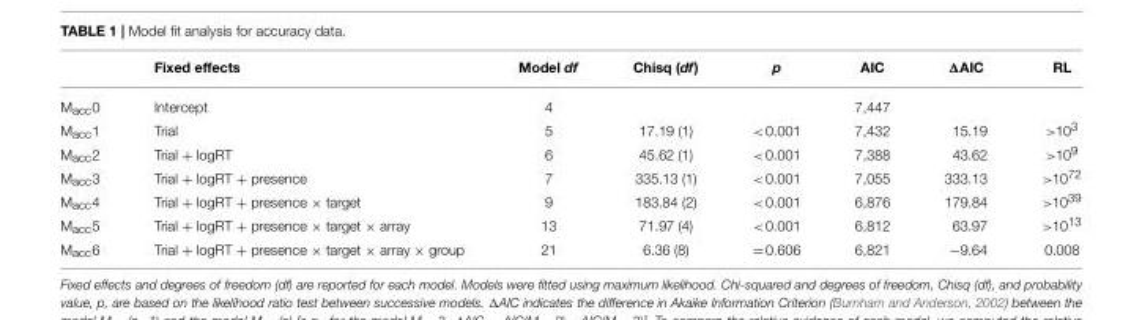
<table><thead><tr><td></td><td>Fixed effects</td><td>Model df</td><td>Chisq (df)</td><td>p</td><td>AIC</td><td>ΔAIC</td><td>RL</td></tr></thead><tbody><tr><td>M<sub>acc</sub>0</td><td>Intercept</td><td>4</td><td></td><td></td><td>7,447</td><td></td><td></td></tr><tr><td>M<sub>acc</sub>1</td><td>Trial</td><td>5</td><td>17.19 (1)</td><td>&lt;0.001</td><td>7,432</td><td>15.19</td><td>&gt;10<sup>3</sup></td></tr><tr><td>M<sub>acc</sub>2</td><td>Trial + logRT</td><td>6</td><td>45.62 (1)</td><td>&lt;0.001</td><td>7,388</td><td>43.62</td><td>&gt;10<sup>9</sup></td></tr><tr><td>M<sub>acc</sub>3</td><td>Trial + logRT + presence</td><td>7</td><td>335.13 (1)</td><td>&lt;0.001</td><td>7,055</td><td>333.13</td><td>&gt;10<sup>72</sup></td></tr><tr><td>M<sub>acc</sub>4</td><td>Trial + logRT + presence × target</td><td>9</td><td>183.84 (2)</td><td>&lt;0.001</td><td>6,876</td><td>179.84</td><td>&gt;10<sup>39</sup></td></tr><tr><td>M<sub>acc</sub>5</td><td>Trial + logRT + presence × target × array</td><td>13</td><td>71.97 (4)</td><td>&lt;0.001</td><td>6,812</td><td>63.97</td><td>&gt;10<sup>13</sup></td></tr><tr><td>M<sub>acc</sub>6</td><td>Trial + logRT + presence × target × array × group</td><td>21</td><td>6.36 (8)</td><td>=0.606</td><td>6,821</td><td>−9.64</td><td>0.008</td></tr></tbody></table>